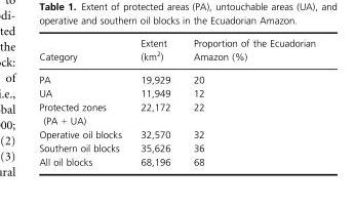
<table><thead><tr><td>Category</td><td>Extent (km<sup>2</sup>)</td><td>Proportion of the Ecuadorian Amazon (%)</td></tr></thead><tbody><tr><td>PA</td><td>19,929</td><td>20</td></tr><tr><td>UA</td><td>11,949</td><td>12</td></tr><tr><td>Protected zones (PA + UA)</td><td>22,172</td><td>22</td></tr><tr><td>Operative oil blocks</td><td>32,570</td><td>32</td></tr><tr><td>Southern oil blocks</td><td>35,626</td><td>36</td></tr><tr><td>All oil blocks</td><td>68,196</td><td>68</td></tr></tbody></table>